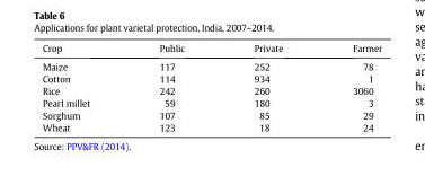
<table><thead><tr><td>Crop</td><td>Public</td><td>Private</td><td>Farmer</td></tr></thead><tbody><tr><td>Maize</td><td>117</td><td>252</td><td>78</td></tr><tr><td>Cotton</td><td>114</td><td>934</td><td>1</td></tr><tr><td>Rice</td><td>242</td><td>260</td><td>3060</td></tr><tr><td>Pearl millet</td><td>59</td><td>180</td><td>3</td></tr><tr><td>Sorghum</td><td>107</td><td>85</td><td>29</td></tr><tr><td>Wheat</td><td>123</td><td>18</td><td>24</td></tr></tbody></table>